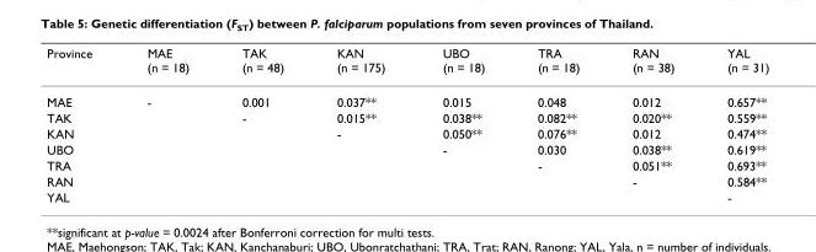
<table><thead><tr><td>Province</td><td>MAE (n = 18)</td><td>TAK (n = 48)</td><td>KAN (n = 175)</td><td>UBO (n = 18)</td><td>TRA (n = 18)</td><td>RAN (n = 38)</td><td>YAL (n = 31)</td></tr></thead><tbody><tr><td>MAE</td><td>-</td><td>0.001</td><td>0.037**</td><td>0.015</td><td>0.048</td><td>0.012</td><td>0.657**</td></tr><tr><td>TAK</td><td></td><td>-</td><td>0.015**</td><td>0.038**</td><td>0.082**</td><td>0.020**</td><td>0.559**</td></tr><tr><td>KAN</td><td></td><td></td><td>-</td><td>0.050**</td><td>0.076**</td><td>0.012</td><td>0.474**</td></tr><tr><td>UBO</td><td></td><td></td><td></td><td>-</td><td>0.030</td><td>0.038**</td><td>0.619**</td></tr><tr><td>TRA</td><td></td><td></td><td></td><td></td><td>-</td><td>0.051**</td><td>0.693**</td></tr><tr><td>RAN</td><td></td><td></td><td></td><td></td><td></td><td>-</td><td>0.584**</td></tr><tr><td>YAL</td><td></td><td></td><td></td><td></td><td></td><td></td><td>-</td></tr></tbody></table>